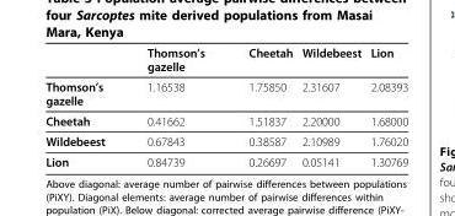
<table><thead><tr><td></td><td>Thomson’s gazelle</td><td>Cheetah</td><td>Wildebeest</td><td>Lion</td></tr></thead><tbody><tr><td>Thomson’s gazelle</td><td>1.16538</td><td>1.75850</td><td>2.31607</td><td>2.08393</td></tr><tr><td>Cheetah</td><td>0.41662</td><td>1.51837</td><td>2.20000</td><td>1.68000</td></tr><tr><td>Wildebeest</td><td>0.67843</td><td>0.38587</td><td>2.10989</td><td>1.76020</td></tr><tr><td>Lion</td><td>0.84739</td><td>0.26697</td><td>0.05141</td><td>1.30769</td></tr></tbody></table>